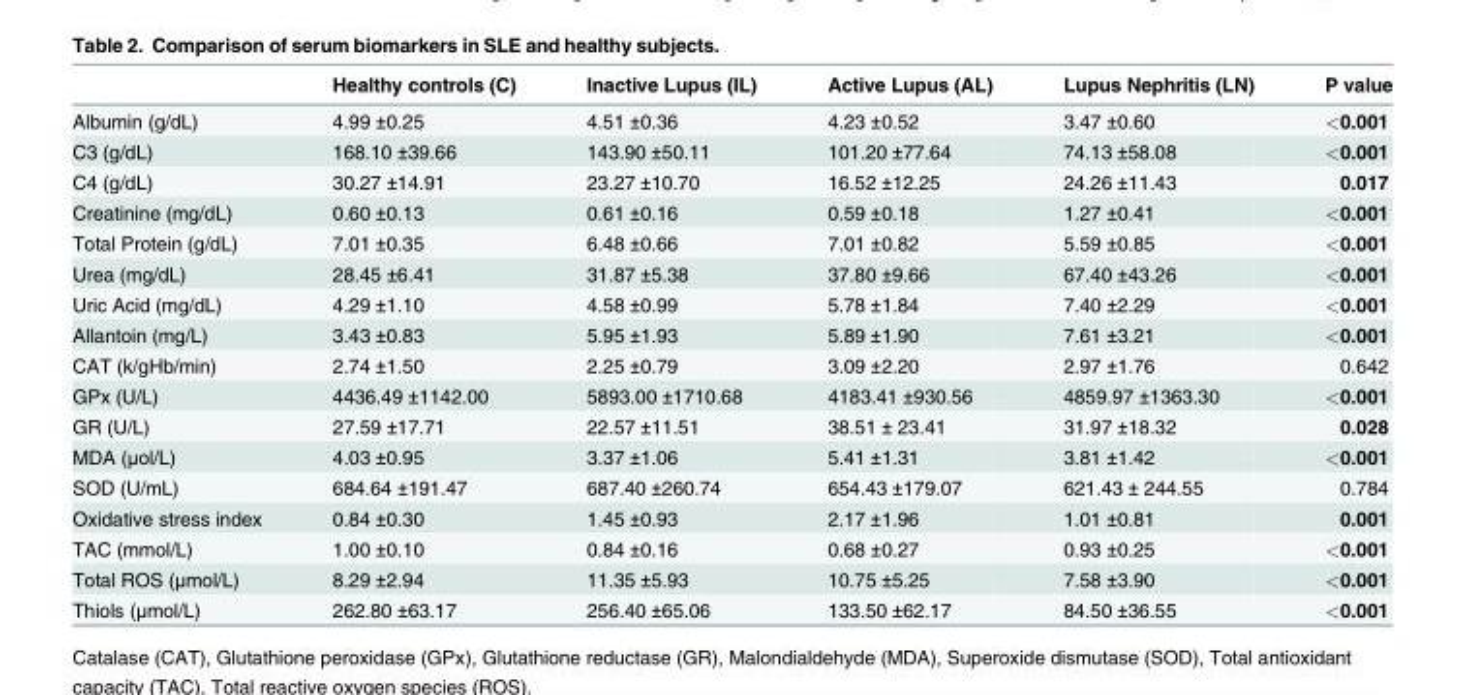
<table><thead><tr><td></td><td>Healthy controls (C)</td><td>Inactive Lupus (IL)</td><td>Active Lupus (AL)</td><td>Lupus Nephritis (LN)</td><td>P value</td></tr></thead><tbody><tr><td>Albumin (g/dL)</td><td>4.99 ±0.25</td><td>4.51 ±0.36</td><td>4.23 ±0.52</td><td>3.47 ±0.60</td><td>&lt;0.001</td></tr><tr><td>C3 (g/dL)</td><td>168.10 ±39.66</td><td>143.90 ±50.11</td><td>101.20 ±77.64</td><td>74.13 ±58.08</td><td>&lt;0.001</td></tr><tr><td>C4 (g/dL)</td><td>30.27 ±14.91</td><td>23.27 ±10.70</td><td>16.52 ±12.25</td><td>24.26 ±11.43</td><td>0.017</td></tr><tr><td>Creatinine (mg/dL)</td><td>0.60 ±0.13</td><td>0.61 ±0.16</td><td>0.59 ±0.18</td><td>1.27 ±0.41</td><td>&lt;0.001</td></tr><tr><td>Total Protein (g/dL)</td><td>7.01 ±0.35</td><td>6.48 ±0.66</td><td>7.01 ±0.82</td><td>5.59 ±0.85</td><td>&lt;0.001</td></tr><tr><td>Urea (mg/dL)</td><td>28.45 ±6.41</td><td>31.87 ±5.38</td><td>37.80 ±9.66</td><td>67.40 ±43.26</td><td>&lt;0.001</td></tr><tr><td>Uric Acid (mg/dL)</td><td>4.29 ±1.10</td><td>4.58 ±0.99</td><td>5.78 ±1.84</td><td>7.40 ±2.29</td><td>&lt;0.001</td></tr><tr><td>Allantoin (mg/L)</td><td>3.43 ±0.83</td><td>5.95 ±1.93</td><td>5.89 ±1.90</td><td>7.61 ±3.21</td><td>&lt;0.001</td></tr><tr><td>CAT (k/gHb/min)</td><td>2.74 ±1.50</td><td>2.25 ±0.79</td><td>3.09 ±2.20</td><td>2.97 ±1.76</td><td>0.642</td></tr><tr><td>GPx (U/L)</td><td>4436.49 ±1142.00</td><td>5893.00 ±1710.68</td><td>4183.41 ±930.56</td><td>4859.97 ±1363.30</td><td>&lt;0.001</td></tr><tr><td>GR (U/L)</td><td>27.59 ±17.71</td><td>22.57 ±11.51</td><td>38.51 ± 23.41</td><td>31.97 ±18.32</td><td>0.028</td></tr><tr><td>MDA (μol/L)</td><td>4.03 ±0.95</td><td>3.37 ±1.06</td><td>5.41 ±1.31</td><td>3.81 ±1.42</td><td>&lt;0.001</td></tr><tr><td>SOD (U/mL)</td><td>684.64 ±191.47</td><td>687.40 ±260.74</td><td>654.43 ±179.07</td><td>621.43 ± 244.55</td><td>0.784</td></tr><tr><td>Oxidative stress index</td><td>0.84 ±0.30</td><td>1.45 ±0.93</td><td>2.17 ±1.96</td><td>1.01 ±0.81</td><td>0.001</td></tr><tr><td>TAC (mmol/L)</td><td>1.00 ±0.10</td><td>0.84 ±0.16</td><td>0.68 ±0.27</td><td>0.93 ±0.25</td><td>&lt;0.001</td></tr><tr><td>Total ROS (μmol/L)</td><td>8.29 ±2.94</td><td>11.35 ±5.93</td><td>10.75 ±5.25</td><td>7.58 ±3.90</td><td>&lt;0.001</td></tr><tr><td>Thiols (μmol/L)</td><td>262.80 ±63.17</td><td>256.40 ±65.06</td><td>133.50 ±62.17</td><td>84.50 ±36.55</td><td>&lt;0.001</td></tr></tbody></table>